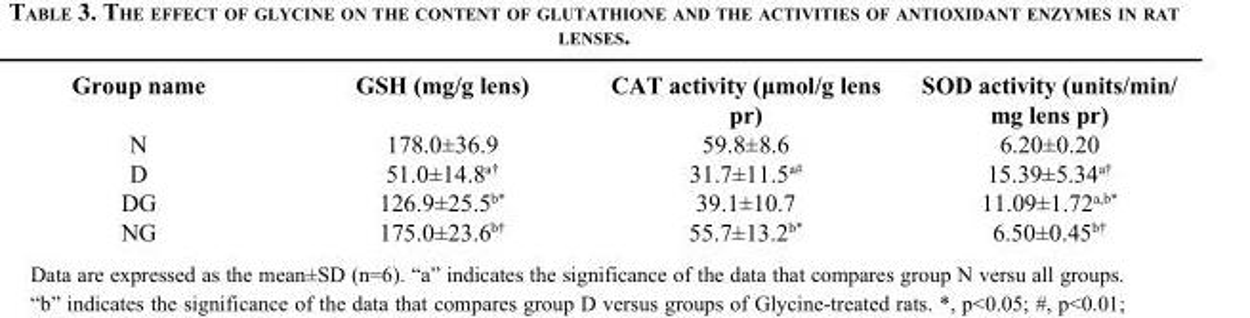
<table><thead><tr><td>Group name</td><td>GSH (mg/g lens)</td><td>CAT activity (μmol/g lens pr)</td><td>SOD activity (units/min/ mg lens pr)</td></tr></thead><tbody><tr><td>N</td><td>178.0±36.9</td><td>59.8±8.6</td><td>6.20±0.20</td></tr><tr><td>D</td><td>51.0±14.8<sup>a†</sup></td><td>31.7±11.5<sup>a#</sup></td><td>15.39±5.34<sup>a†</sup></td></tr><tr><td>DG</td><td>126.9±25.5<sup>b*</sup></td><td>39.1±10.7</td><td>11.09±1.72<sup>a,b*</sup></td></tr><tr><td>NG</td><td>175.0±23.6<sup>b†</sup></td><td>55.7±13.2<sup>b*</sup></td><td>6.50±0.45<sup>b†</sup></td></tr></tbody></table>